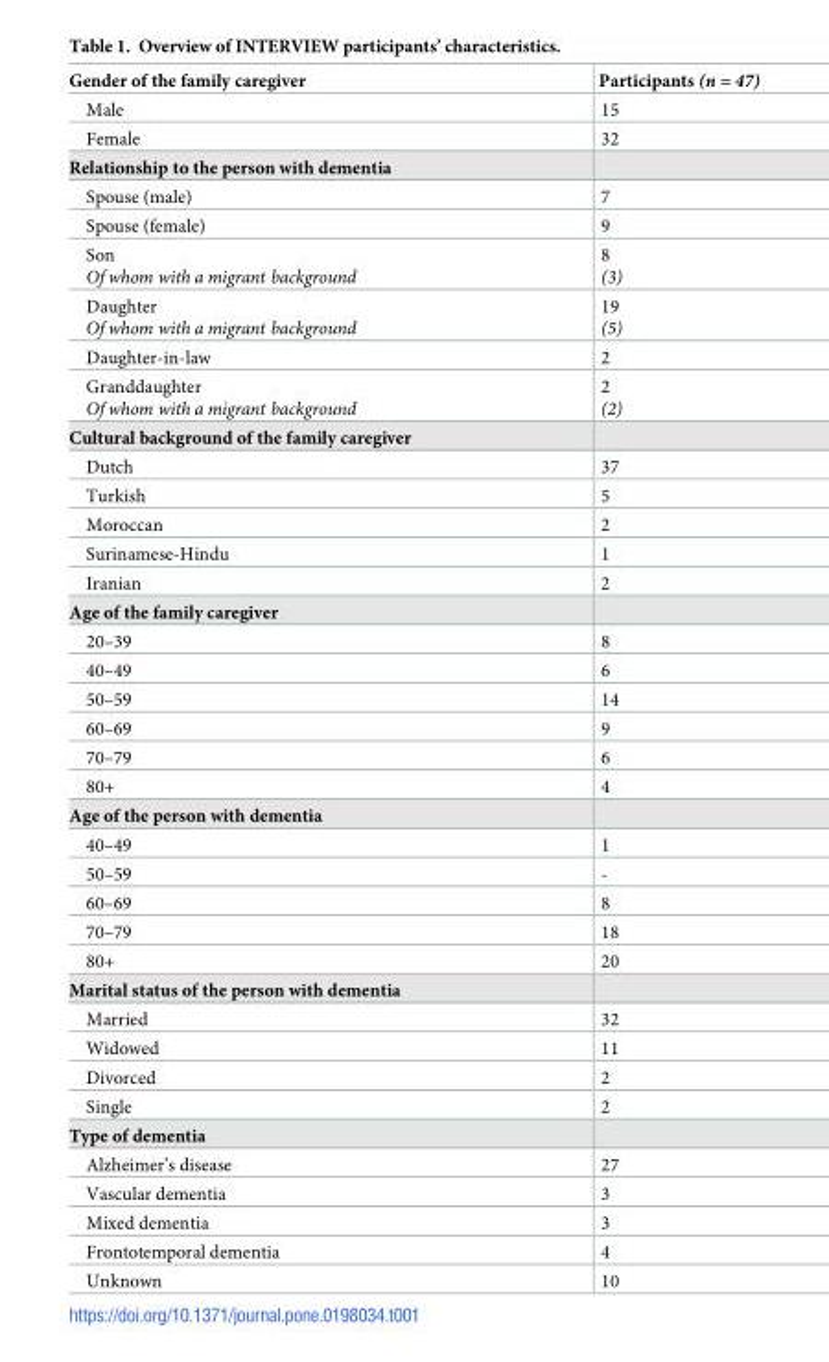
<table><thead><tr><td>Gender of the family caregiver</td><td>Participants (n = 47)</td></tr></thead><tbody><tr><td>Male</td><td>15</td></tr><tr><td>Female</td><td>32</td></tr><tr><td colspan="2">Relationship to the person with dementia</td></tr><tr><td>Spouse (male)</td><td>7</td></tr><tr><td>Spouse (female)</td><td>9</td></tr><tr><td>Son Of whom with a migrant background</td><td>8 (3)</td></tr><tr><td>Daughter Of whom with a migrant background</td><td>19 (5)</td></tr><tr><td>Daughter-in-law</td><td>2</td></tr><tr><td>Granddaughter Of whom with a migrant background</td><td>2 (2)</td></tr><tr><td colspan="2">Cultural background of the family caregiver</td></tr><tr><td>Dutch</td><td>37</td></tr><tr><td>Turkish</td><td>5</td></tr><tr><td>Moroccan</td><td>2</td></tr><tr><td>Surinamese-Hindu</td><td>1</td></tr><tr><td>Iranian</td><td>2</td></tr><tr><td colspan="2">Age of the family caregiver</td></tr><tr><td>20–39</td><td>8</td></tr><tr><td>40–49</td><td>6</td></tr><tr><td>50–59</td><td>14</td></tr><tr><td>60–69</td><td>9</td></tr><tr><td>70–79</td><td>6</td></tr><tr><td>80+</td><td>4</td></tr><tr><td colspan="2">Age of the person with dementia</td></tr><tr><td>40–49</td><td>1</td></tr><tr><td>50–59</td><td>-</td></tr><tr><td>60–69</td><td>8</td></tr><tr><td>70–79</td><td>18</td></tr><tr><td>80+</td><td>20</td></tr><tr><td colspan="2">Marital status of the person with dementia</td></tr><tr><td>Married</td><td>32</td></tr><tr><td>Widowed</td><td>11</td></tr><tr><td>Divorced</td><td>2</td></tr><tr><td>Single</td><td>2</td></tr><tr><td colspan="2">Type of dementia</td></tr><tr><td>Alzheimer’s disease</td><td>27</td></tr><tr><td>Vascular dementia</td><td>3</td></tr><tr><td>Mixed dementia</td><td>3</td></tr><tr><td>Frontotemporal dementia</td><td>4</td></tr><tr><td>Unknown</td><td>10</td></tr></tbody></table>